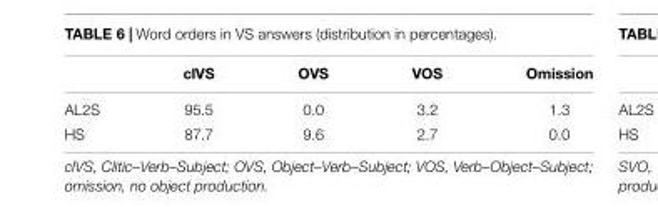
<table><thead><tr><td></td><td>clVS</td><td>OVS</td><td>VOS</td><td>Omission</td></tr></thead><tbody><tr><td>AL2S</td><td>95.5</td><td>0.0</td><td>3.2</td><td>1.3</td></tr><tr><td>HS</td><td>87.7</td><td>9.6</td><td>2.7</td><td>0.0</td></tr></tbody></table>